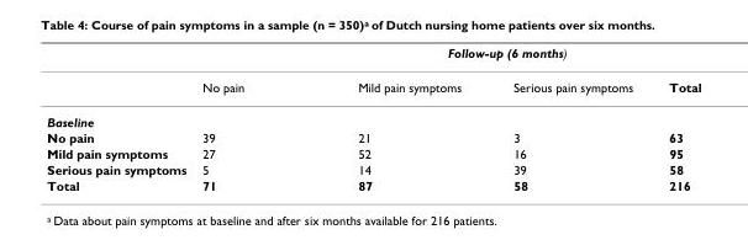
<table><thead><tr><td rowspan="2"></td><td colspan="4">Follow-up (6 months)</td></tr><tr><td>No pain</td><td>Mild pain symptoms</td><td>Serious pain symptoms</td><td>Total</td></tr></thead><tbody><tr><td colspan="5">Baseline</td></tr><tr><td>No pain</td><td>39</td><td>21</td><td>3</td><td>63</td></tr><tr><td>Mild pain symptoms</td><td>27</td><td>52</td><td>16</td><td>95</td></tr><tr><td>Serious pain symptoms</td><td>5</td><td>14</td><td>39</td><td>58</td></tr><tr><td>Total</td><td>71</td><td>87</td><td>58</td><td>216</td></tr></tbody></table>